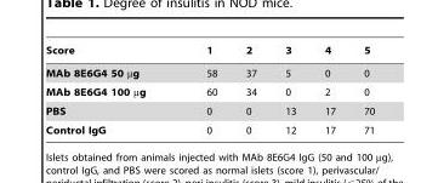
<table><thead><tr><td>Score</td><td>1</td><td>2</td><td>3</td><td>4</td><td>5</td></tr></thead><tbody><tr><td>MAb 8E6G4 50 µg</td><td>58</td><td>37</td><td>5</td><td>0</td><td>0</td></tr><tr><td>MAb 8E6G4 100 µg</td><td>60</td><td>34</td><td>0</td><td>2</td><td>0</td></tr><tr><td>PBS</td><td>0</td><td>0</td><td>13</td><td>17</td><td>70</td></tr><tr><td>Control IgG</td><td>0</td><td>0</td><td>12</td><td>17</td><td>71</td></tr></tbody></table>